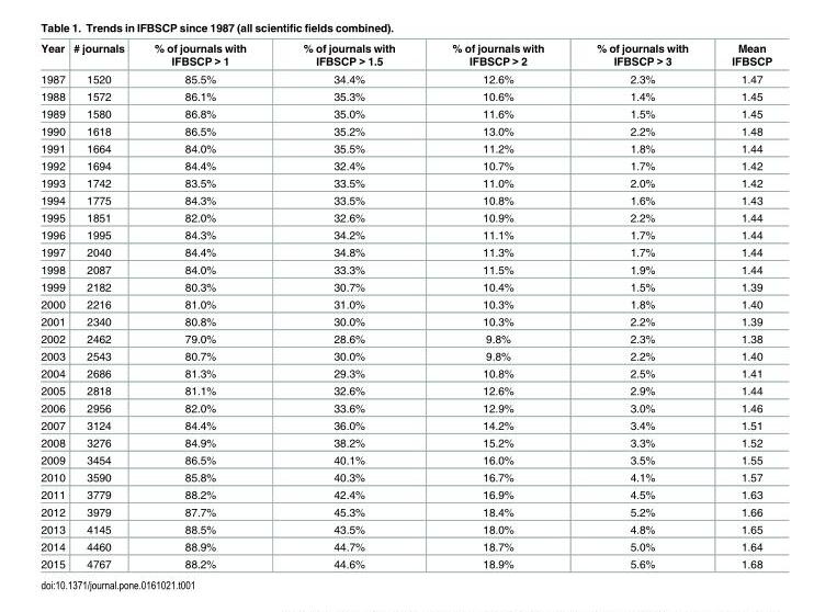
<table><thead><tr><td>Year</td><td># journals</td><td>% of journals with IFBSCP &gt; 1</td><td>% of journals with IFBSCP &gt; 1.5</td><td>% of journals with IFBSCP &gt; 2</td><td>% of journals with IFBSCP &gt; 3</td><td>Mean IFBSCP</td></tr></thead><tbody><tr><td>1987</td><td>1520</td><td>85.5%</td><td>34.4%</td><td>12.6%</td><td>2.3%</td><td>1.47</td></tr><tr><td>1988</td><td>1572</td><td>86.1%</td><td>35.3%</td><td>10.6%</td><td>1.4%</td><td>1.45</td></tr><tr><td>1989</td><td>1580</td><td>86.8%</td><td>35.0%</td><td>11.6%</td><td>1.5%</td><td>1.45</td></tr><tr><td>1990</td><td>1618</td><td>86.5%</td><td>35.2%</td><td>13.0%</td><td>2.2%</td><td>1.48</td></tr><tr><td>1991</td><td>1664</td><td>84.0%</td><td>35.5%</td><td>11.2%</td><td>1.8%</td><td>1.44</td></tr><tr><td>1992</td><td>1694</td><td>84.4%</td><td>32.4%</td><td>10.7%</td><td>1.7%</td><td>1.42</td></tr><tr><td>1993</td><td>1742</td><td>83.5%</td><td>33.5%</td><td>11.0%</td><td>2.0%</td><td>1.42</td></tr><tr><td>1994</td><td>1775</td><td>84.3%</td><td>33.5%</td><td>10.8%</td><td>1.6%</td><td>1.43</td></tr><tr><td>1995</td><td>1851</td><td>82.0%</td><td>32.6%</td><td>10.9%</td><td>2.2%</td><td>1.44</td></tr><tr><td>1996</td><td>1995</td><td>84.3%</td><td>34.2%</td><td>11.1%</td><td>1.7%</td><td>1.44</td></tr><tr><td>1997</td><td>2040</td><td>84.4%</td><td>34.8%</td><td>11.3%</td><td>1.7%</td><td>1.44</td></tr><tr><td>1998</td><td>2087</td><td>84.0%</td><td>33.3%</td><td>11.5%</td><td>1.9%</td><td>1.44</td></tr><tr><td>1999</td><td>2182</td><td>80.3%</td><td>30.7%</td><td>10.4%</td><td>1.5%</td><td>1.39</td></tr><tr><td>2000</td><td>2216</td><td>81.0%</td><td>31.0%</td><td>10.3%</td><td>1.8%</td><td>1.40</td></tr><tr><td>2001</td><td>2340</td><td>80.8%</td><td>30.0%</td><td>10.3%</td><td>2.2%</td><td>1.39</td></tr><tr><td>2002</td><td>2462</td><td>79.0%</td><td>28.6%</td><td>9.8%</td><td>2.3%</td><td>1.38</td></tr><tr><td>2003</td><td>2543</td><td>80.7%</td><td>30.0%</td><td>9.8%</td><td>2.2%</td><td>1.40</td></tr><tr><td>2004</td><td>2686</td><td>81.3%</td><td>29.3%</td><td>10.8%</td><td>2.5%</td><td>1.41</td></tr><tr><td>2005</td><td>2818</td><td>81.1%</td><td>32.6%</td><td>12.6%</td><td>2.9%</td><td>1.44</td></tr><tr><td>2006</td><td>2956</td><td>82.0%</td><td>33.6%</td><td>12.9%</td><td>3.0%</td><td>1.46</td></tr><tr><td>2007</td><td>3124</td><td>84.4%</td><td>36.0%</td><td>14.2%</td><td>3.4%</td><td>1.51</td></tr><tr><td>2008</td><td>3276</td><td>84.9%</td><td>38.2%</td><td>15.2%</td><td>3.3%</td><td>1.52</td></tr><tr><td>2009</td><td>3454</td><td>86.5%</td><td>40.1%</td><td>16.0%</td><td>3.5%</td><td>1.55</td></tr><tr><td>2010</td><td>3590</td><td>85.8%</td><td>40.3%</td><td>16.7%</td><td>4.1%</td><td>1.57</td></tr><tr><td>2011</td><td>3779</td><td>88.2%</td><td>42.4%</td><td>16.9%</td><td>4.5%</td><td>1.63</td></tr><tr><td>2012</td><td>3979</td><td>87.7%</td><td>45.3%</td><td>18.4%</td><td>5.2%</td><td>1.66</td></tr><tr><td>2013</td><td>4145</td><td>88.5%</td><td>43.5%</td><td>18.0%</td><td>4.8%</td><td>1.65</td></tr><tr><td>2014</td><td>4460</td><td>88.9%</td><td>44.7%</td><td>18.7%</td><td>5.0%</td><td>1.64</td></tr><tr><td>2015</td><td>4767</td><td>88.2%</td><td>44.6%</td><td>18.9%</td><td>5.6%</td><td>1.68</td></tr></tbody></table>